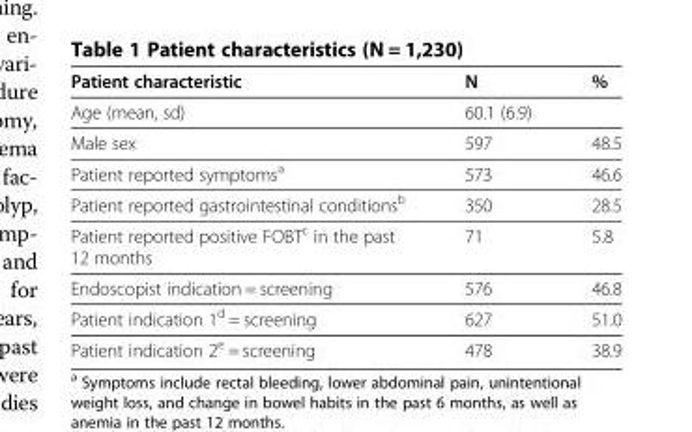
<table><thead><tr><td>Patient characteristic</td><td>N</td><td>%</td></tr></thead><tbody><tr><td>Age (mean, sd)</td><td>60.1 (6.9)</td><td></td></tr><tr><td>Male sex</td><td>597</td><td>48.5</td></tr><tr><td>Patient reported symptoms<sup>a</sup></td><td>573</td><td>46.6</td></tr><tr><td>Patient reported gastrointestinal conditions<sup>b</sup></td><td>350</td><td>28.5</td></tr><tr><td>Patient reported positive FOBT<sup>c</sup> in the past 12 months</td><td>71</td><td>5.8</td></tr><tr><td>Endoscopist indication = screening</td><td>576</td><td>46.8</td></tr><tr><td>Patient indication 1<sup>d</sup> = screening</td><td>627</td><td>51.0</td></tr><tr><td>Patient indication 2<sup>e</sup> = screening</td><td>478</td><td>38.9</td></tr></tbody></table>